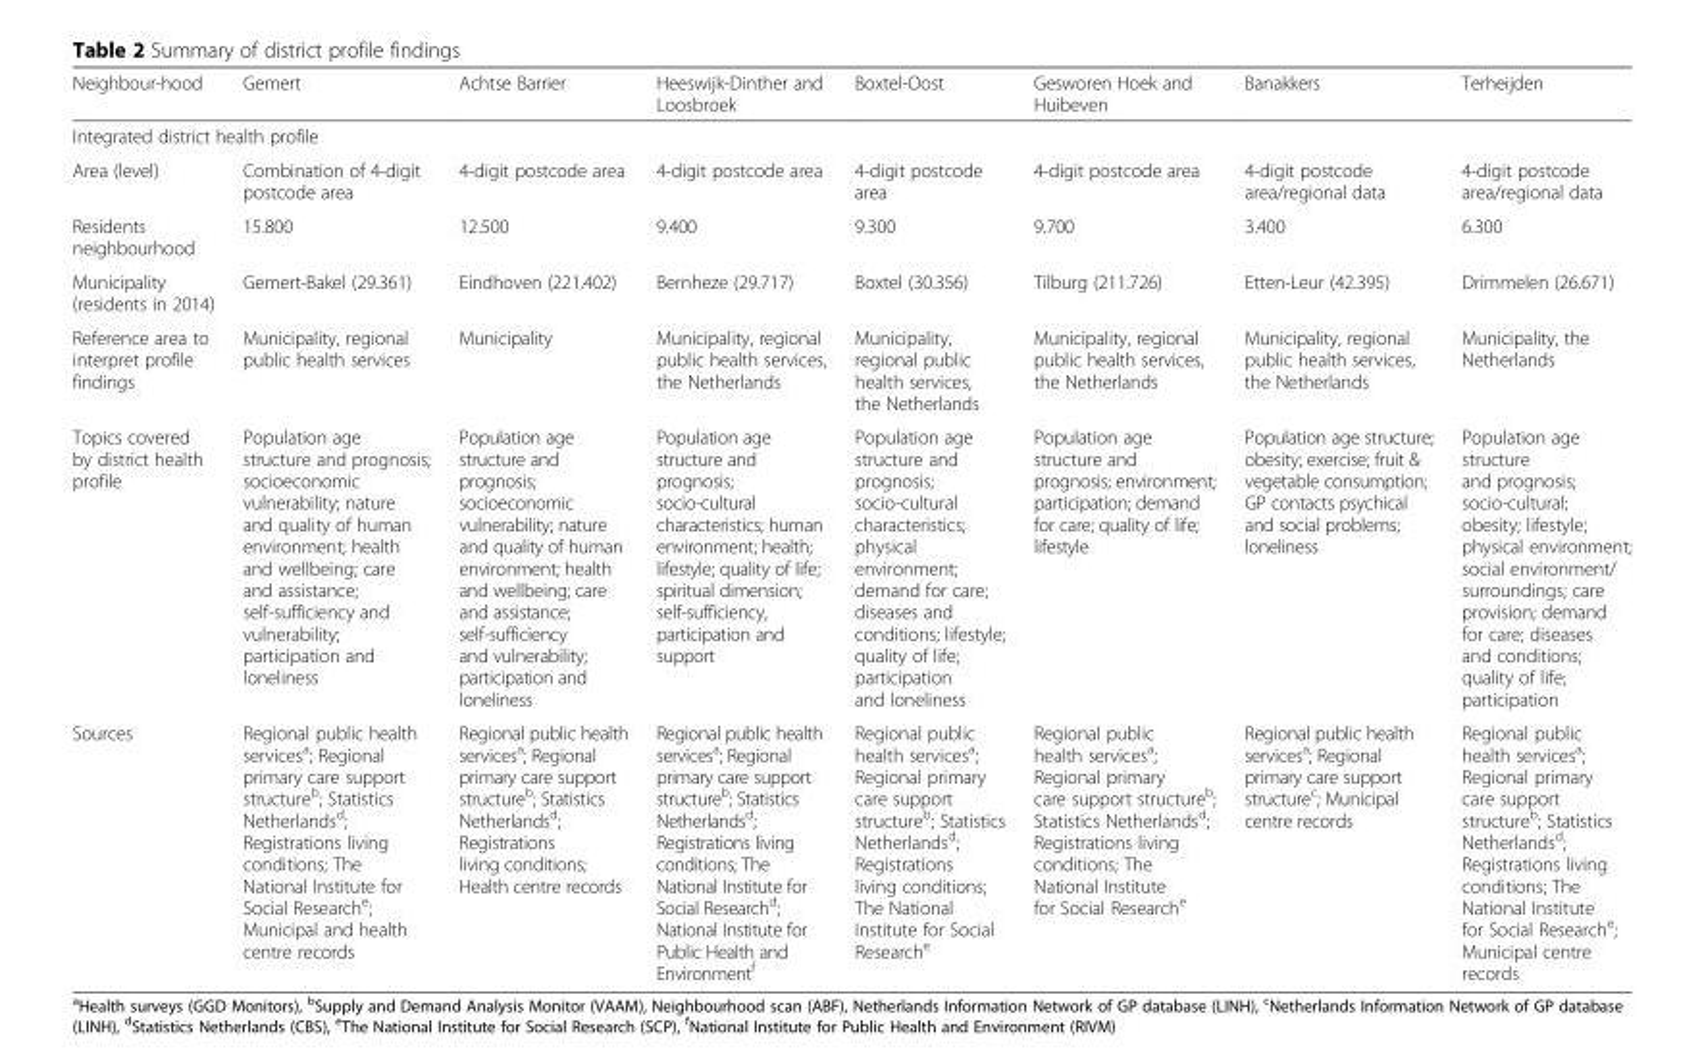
<table><thead><tr><td>Neighbour-hood</td><td>Gemert</td><td>Achtse Barrier</td><td>Heeswijk-Dinther and Loosbroek</td><td>Boxtel-Oost</td><td>Gesworen Hoek and Huibeven</td><td>Banakkers</td><td>Terheijden</td></tr></thead><tbody><tr><td colspan="8">Integrated district health profile</td></tr><tr><td>Area (level)</td><td>Combination of 4-digit postcode area</td><td>4-digit postcode area</td><td>4-digit postcode area</td><td>4-digit postcode area</td><td>4-digit postcode area</td><td>4-digit postcode area/regional data</td><td>4-digit postcode area/regional data</td></tr><tr><td>Residents neighbourhood</td><td>15.800</td><td>12.500</td><td>9.400</td><td>9.300</td><td>9.700</td><td>3.400</td><td>6.300</td></tr><tr><td>Municipality (residents in 2014)</td><td>Gemert-Bakel (29.361)</td><td>Eindhoven (221.402)</td><td>Bernheze (29.717)</td><td>Boxtel (30.356)</td><td>Tilburg (211.726)</td><td>Etten-Leur (42.395)</td><td>Drimmelen (26.671)</td></tr><tr><td>Reference area to interpret profile findings</td><td>Municipality, regional public health services</td><td>Municipality</td><td>Municipality, regional public health services, the Netherlands</td><td>Municipality, regional public health services, the Netherlands</td><td>Municipality, regional public health services, the Netherlands</td><td>Municipality, regional public health services, the Netherlands</td><td>Municipality, the Netherlands</td></tr><tr><td>Topics covered by district health profile</td><td>Population age structure and prognosis; socioeconomic vulnerability; nature and quality of human environment; health and wellbeing; care and assistance; self-sufficiency and vulnerability; participation and loneliness</td><td>Population age structure and prognosis; socioeconomic vulnerability; nature and quality of human environment; health and wellbeing; care and assistance; self-sufficiency and vulnerability; participation and loneliness</td><td>Population age structure and prognosis; socio-cultural characteristics; human environment; health; lifestyle; quality of life; spiritual dimension; self-sufficiency, participation and support</td><td>Population age structure and prognosis; socio-cultural characteristics; physical environment; demand for care; diseases and conditions; lifestyle; quality of life; participation and loneliness</td><td>Population age structure and prognosis; environment; participation; demand for care; quality of life; lifestyle</td><td>Population age structure; obesity; exercise; fruit &amp; vegetable consumption; GP contacts psychical and social problems; loneliness</td><td>Population age structure and prognosis; socio-cultural; obesity; lifestyle; physical environment; social environment/ surroundings; care provision; demand for care; diseases and conditions; quality of life; participation</td></tr><tr><td>Sources</td><td>Regional public health services<sup>a</sup>; Regional primary care support structure<sup>b</sup>; Statistics Netherlands<sup>d</sup>; Registrations living conditions; The National Institute for Social Research<sup>e</sup>; Municipal and health centre records</td><td>Regional public health services<sup>a</sup>; Regional primary care support structure<sup>b</sup>; Statistics Netherlands<sup>d</sup>; Registrations living conditions; Health centre records</td><td>Regional public health services<sup>a</sup>; Regional primary care support structure<sup>b</sup>; Statistics Netherlands<sup>d</sup>; Registrations living conditions; The National Institute for Social Research<sup>d</sup>; National Institute for Public Health and Environment<sup>f</sup></td><td>Regional public health services<sup>a</sup>; Regional primary care support structure<sup>b</sup>; Statistics Netherlands<sup>d</sup>; Registrations living conditions; The National Institute for Social Research<sup>e</sup></td><td>Regional public health services<sup>a</sup>; Regional primary care support structure<sup>b</sup>; Statistics Netherlands<sup>d</sup>; Registrations living conditions; The National Institute for Social Research<sup>e</sup></td><td>Regional public health services<sup>a</sup>; Regional primary care support structure<sup>c</sup>; Municipal centre records</td><td>Regional public health services<sup>a</sup>; Regional primary care support structure<sup>b</sup>; Statistics Netherlands<sup>d</sup>; Registrations living conditions; The National Institute for Social Research<sup>e</sup>; Municipal centre records</td></tr></tbody></table>